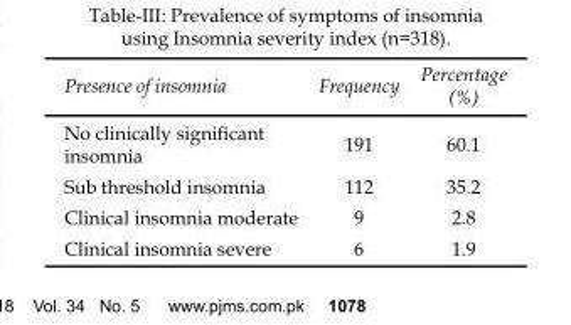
<table><thead><tr><td>Presence of insomnia</td><td>Frequency</td><td>Percentage (%)</td></tr></thead><tbody><tr><td>No clinically significant insomnia</td><td>191</td><td>60.1</td></tr><tr><td>Sub threshold insomnia</td><td>112</td><td>35.2</td></tr><tr><td>Clinical insomnia moderate</td><td>9</td><td>2.8</td></tr><tr><td>Clinical insomnia severe</td><td>6</td><td>1.9</td></tr></tbody></table>